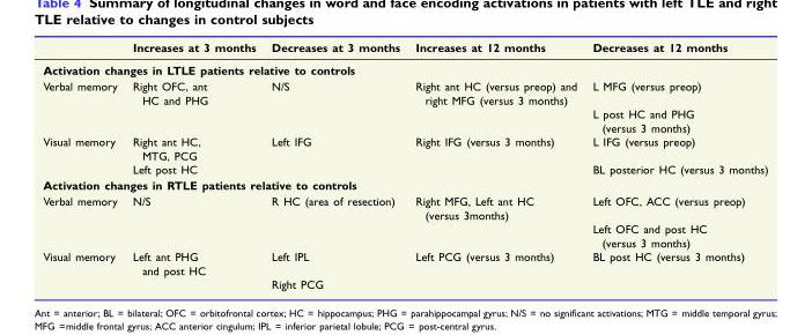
<table><thead><tr><td></td><td>Increases at 3 months</td><td>Decreases at 3 months</td><td>Increases at 12 months</td><td>Decreases at 12 months</td></tr><tr><td colspan="5">Activation changes in LTLE patients relative to controls</td></tr></thead><tbody><tr><td rowspan="2">Verbal memory</td><td>Right OFC, ant HC and PHG</td><td>N/S</td><td>Right ant HC (versus preop) and right MFG (versus 3 months)</td><td>L MFG (versus preop)</td></tr><tr><td></td><td></td><td></td><td>L post HC and PHG (versus 3 months)</td></tr><tr><td rowspan="2">Visual memory</td><td>Right ant HC, MTG, PCG</td><td>Left IFG</td><td>Right IFG (versus 3 months)</td><td>L IFG (versus preop)</td></tr><tr><td>Left post HC</td><td></td><td></td><td>BL posterior HC (versus 3 months)</td></tr><tr><td colspan="5">Activation changes in RTLE patients relative to controls</td></tr><tr><td rowspan="2">Verbal memory</td><td>N/S</td><td>R HC (area of resection)</td><td>Right MFG, Left ant HC (versus 3months)</td><td>Left OFC, ACC (versus preop)</td></tr><tr><td></td><td></td><td></td><td>Left OFC and post HC (versus 3 months)</td></tr><tr><td rowspan="2">Visual memory</td><td>Left ant PHG and post HC</td><td>Left IPL</td><td>Left PCG (versus 3 months)</td><td>BL post HC (versus 3 months)</td></tr><tr><td></td><td>Right PCG</td><td></td><td></td></tr></tbody></table>